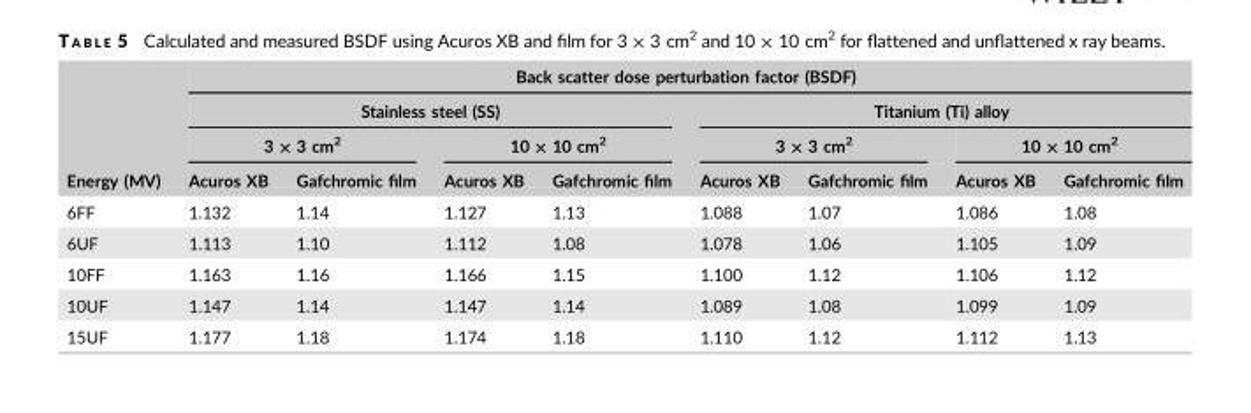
<table><thead><tr><td rowspan="4">Energy (MV)</td><td colspan="8">Back scatter dose perturbation factor (BSDF)</td></tr><tr><td colspan="4">Stainless steel (SS)</td><td colspan="4">Titanium (Ti) alloy</td></tr><tr><td colspan="2">3 × 3 cm<sup>2</sup></td><td colspan="2">10 × 10 cm<sup>2</sup></td><td colspan="2">3 × 3 cm<sup>2</sup></td><td colspan="2">10 × 10 cm<sup>2</sup></td></tr><tr><td>Acuros XB</td><td>Gafchromic film</td><td>Acuros XB</td><td>Gafchromic film</td><td>Acuros XB</td><td>Gafchromic film</td><td>Acuros XB</td><td>Gafchromic film</td></tr></thead><tbody><tr><td>6FF</td><td>1.132</td><td>1.14</td><td>1.127</td><td>1.13</td><td>1.088</td><td>1.07</td><td>1.086</td><td>1.08</td></tr><tr><td>6UF</td><td>1.113</td><td>1.10</td><td>1.112</td><td>1.08</td><td>1.078</td><td>1.06</td><td>1.105</td><td>1.09</td></tr><tr><td>10FF</td><td>1.163</td><td>1.16</td><td>1.166</td><td>1.15</td><td>1.100</td><td>1.12</td><td>1.106</td><td>1.12</td></tr><tr><td>10UF</td><td>1.147</td><td>1.14</td><td>1.147</td><td>1.14</td><td>1.089</td><td>1.08</td><td>1.099</td><td>1.09</td></tr><tr><td>15UF</td><td>1.177</td><td>1.18</td><td>1.174</td><td>1.18</td><td>1.110</td><td>1.12</td><td>1.112</td><td>1.13</td></tr></tbody></table>